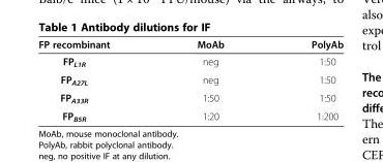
<table><thead><tr><td>FP recombinant</td><td>MoAb</td><td>PolyAb</td></tr></thead><tbody><tr><td>FP<sub>L1R</sub></td><td>neg</td><td>1:50</td></tr><tr><td>FP<sub>A27L</sub></td><td>neg</td><td>1:50</td></tr><tr><td>FP<sub>A33R</sub></td><td>1:50</td><td>1:50</td></tr><tr><td>FP<sub>B5R</sub></td><td>1:20</td><td>1:200</td></tr></tbody></table>